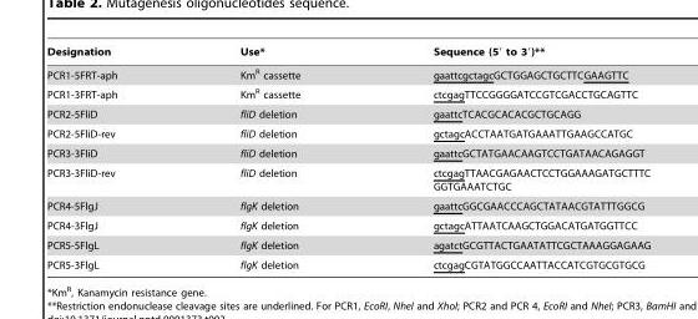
<table><thead><tr><td>Designation</td><td>Use*</td><td>Sequence (5′ to 3′)**</td></tr></thead><tbody><tr><td>PCR1-5FRT-aph</td><td>Km<sup>R</sup> cassette</td><td>gaattcgctagcGCTGGAGCTGCTTCGAAGTTC</td></tr><tr><td>PCR1-3FRT-aph</td><td>Km<sup>R</sup> cassette</td><td>ctcgagTTCCGGGGATCCGTCGACCTGCAGTTC</td></tr><tr><td>PCR2-5FliD</td><td>fliD deletion</td><td>gaattcTCACGCACACGCTGCAGG</td></tr><tr><td>PCR2-5FliD-rev</td><td>fliD deletion</td><td>gctagcACCTAATGATGAAATTGAAGCCATGC</td></tr><tr><td>PCR3-3FliD</td><td>fliD deletion</td><td>gaattcGCTATGAACAAGTCCTGATAACAGAGGT</td></tr><tr><td>PCR3-3FliD-rev</td><td>fliD deletion</td><td>ctcgagTTAACGAGAACTCCTGGAAAGATGCTTTC GGTGAAATCTGC</td></tr><tr><td>PCR4-5FlgJ</td><td>flgK deletion</td><td>gaattcGGCGAACCCAGCTATAACGTATTTGGCG</td></tr><tr><td>PCR4-3FlgJ</td><td>flgK deletion</td><td>gctagcATTAATCAAGCTGGACATGATGGTTCC</td></tr><tr><td>PCR5-5FlgL</td><td>flgK deletion</td><td>agatctGCGTTACTGAATATTCGCTAAAGGAGAAG</td></tr><tr><td>PCR5-3FlgL</td><td>flgK deletion</td><td>ctcgagCGTATGGCCAATTACCATCGTGCGTGCG</td></tr></tbody></table>